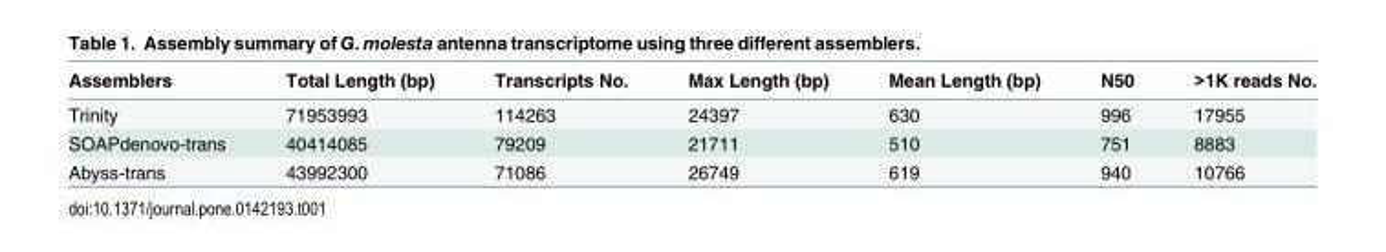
<table><thead><tr><td>Assemblers</td><td>Total Length (bp)</td><td>Transcripts No.</td><td>Max Length (bp)</td><td>Mean Length (bp)</td><td>N50</td><td>&gt;1K reads No.</td></tr></thead><tbody><tr><td>Trinity</td><td>71953993</td><td>114263</td><td>24397</td><td>630</td><td>996</td><td>17955</td></tr><tr><td>SOAPdenovo-trans</td><td>40414085</td><td>79209</td><td>21711</td><td>510</td><td>751</td><td>8883</td></tr><tr><td>Abyss-trans</td><td>43992300</td><td>71086</td><td>26749</td><td>619</td><td>940</td><td>10766</td></tr></tbody></table>